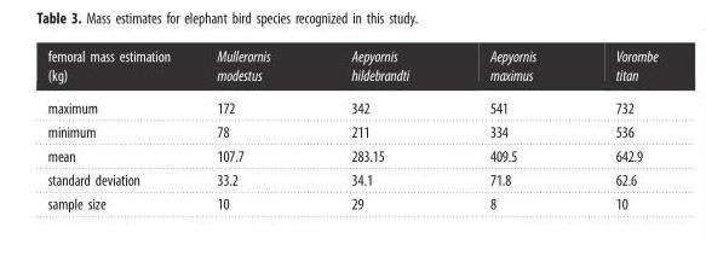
<table><thead><tr><td>femoral mass estimation (kg)</td><td>Mullerornis modestus</td><td>Aepyornis hildebrandti</td><td>Aepyornis maximus</td><td>Vorombe titan</td></tr></thead><tbody><tr><td>maximum</td><td>172</td><td>342</td><td>541</td><td>732</td></tr><tr><td>minimum</td><td>78</td><td>211</td><td>334</td><td>536</td></tr><tr><td>mean</td><td>107.7</td><td>283.15</td><td>409.5</td><td>642.9</td></tr><tr><td>standard deviation</td><td>33.2</td><td>34.1</td><td>71.8</td><td>62.6</td></tr><tr><td>sample size</td><td>10</td><td>29</td><td>8</td><td>10</td></tr></tbody></table>